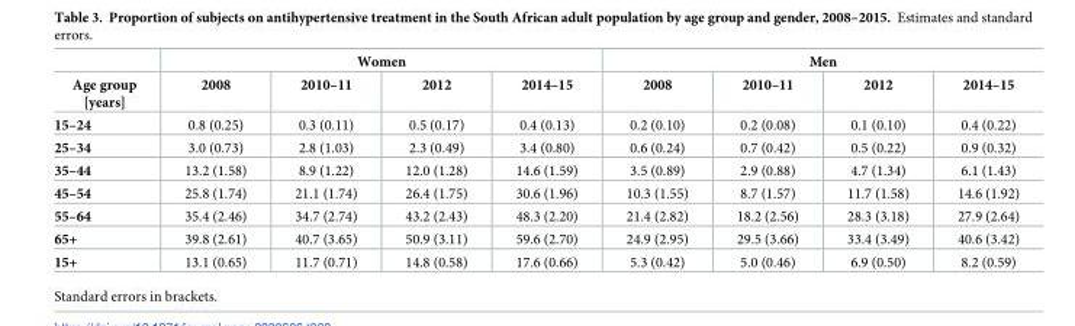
<table><thead><tr><td rowspan="2">Age group [years]</td><td colspan="4">Women</td><td colspan="4">Men</td></tr><tr><td>2008</td><td>2010–11</td><td>2012</td><td>2014–15</td><td>2008</td><td>2010–11</td><td>2012</td><td>2014–15</td></tr></thead><tbody><tr><td>15–24</td><td>0.8 (0.25)</td><td>0.3 (0.11)</td><td>0.5 (0.17)</td><td>0.4 (0.13)</td><td>0.2 (0.10)</td><td>0.2 (0.08)</td><td>0.1 (0.10)</td><td>0.4 (0.22)</td></tr><tr><td>25–34</td><td>3.0 (0.73)</td><td>2.8 (1.03)</td><td>2.3 (0.49)</td><td>3.4 (0.80)</td><td>0.6 (0.24)</td><td>0.7 (0.42)</td><td>0.5 (0.22)</td><td>0.9 (0.32)</td></tr><tr><td>35–44</td><td>13.2 (1.58)</td><td>8.9 (1.22)</td><td>12.0 (1.28)</td><td>14.6 (1.59)</td><td>3.5 (0.89)</td><td>2.9 (0.88)</td><td>4.7 (1.34)</td><td>6.1 (1.43)</td></tr><tr><td>45–54</td><td>25.8 (1.74)</td><td>21.1 (1.74)</td><td>26.4 (1.75)</td><td>30.6 (1.96)</td><td>10.3 (1.55)</td><td>8.7 (1.57)</td><td>11.7 (1.58)</td><td>14.6 (1.92)</td></tr><tr><td>55–64</td><td>35.4 (2.46)</td><td>34.7 (2.74)</td><td>43.2 (2.43)</td><td>48.3 (2.20)</td><td>21.4 (2.82)</td><td>18.2 (2.56)</td><td>28.3 (3.18)</td><td>27.9 (2.64)</td></tr><tr><td>65+</td><td>39.8 (2.61)</td><td>40.7 (3.65)</td><td>50.9 (3.11)</td><td>59.6 (2.70)</td><td>24.9 (2.95)</td><td>29.5 (3.66)</td><td>33.4 (3.49)</td><td>40.6 (3.42)</td></tr><tr><td>15+</td><td>13.1 (0.65)</td><td>11.7 (0.71)</td><td>14.8 (0.58)</td><td>17.6 (0.66)</td><td>5.3 (0.42)</td><td>5.0 (0.46)</td><td>6.9 (0.50)</td><td>8.2 (0.59)</td></tr></tbody></table>